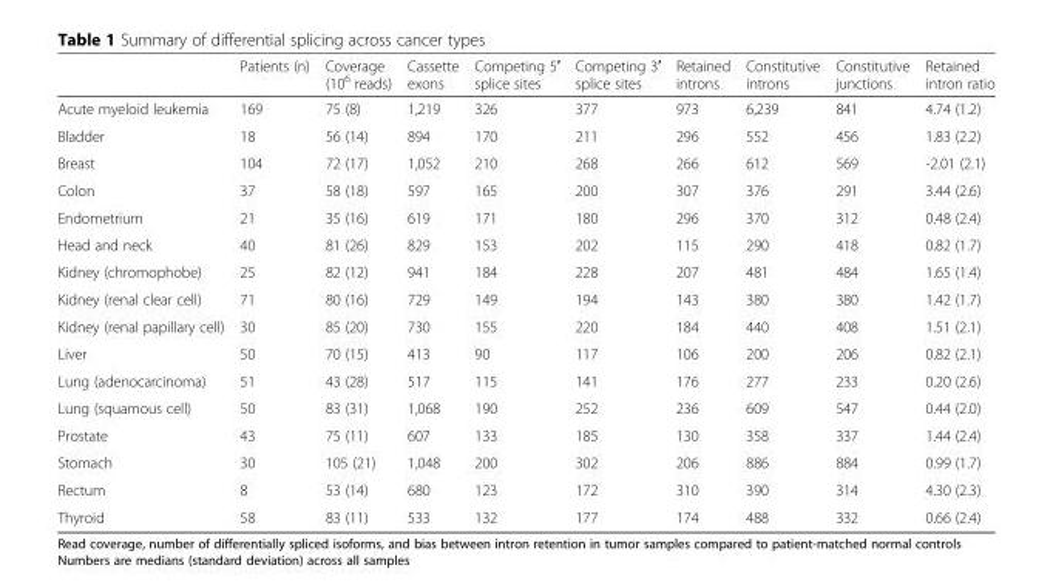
<table><thead><tr><td></td><td>Patients (n)</td><td>Coverage (10<sup>6</sup> reads)</td><td>Cassette exons</td><td>Competing 5′ splice sites</td><td>Competing 3′ splice sites</td><td>Retained introns</td><td>Constitutive introns</td><td>Constitutive junctions</td><td>Retained intron ratio</td></tr></thead><tbody><tr><td>Acute myeloid leukemia</td><td>169</td><td>75 (8)</td><td>1,219</td><td>326</td><td>377</td><td>973</td><td>6,239</td><td>841</td><td>4.74 (1.2)</td></tr><tr><td>Bladder</td><td>18</td><td>56 (14)</td><td>894</td><td>170</td><td>211</td><td>296</td><td>552</td><td>456</td><td>1.83 (2.2)</td></tr><tr><td>Breast</td><td>104</td><td>72 (17)</td><td>1,052</td><td>210</td><td>268</td><td>266</td><td>612</td><td>569</td><td>-2.01 (2.1)</td></tr><tr><td>Colon</td><td>37</td><td>58 (18)</td><td>597</td><td>165</td><td>200</td><td>307</td><td>376</td><td>291</td><td>3.44 (2.6)</td></tr><tr><td>Endometrium</td><td>21</td><td>35 (16)</td><td>619</td><td>171</td><td>180</td><td>296</td><td>370</td><td>312</td><td>0.48 (2.4)</td></tr><tr><td>Head and neck</td><td>40</td><td>81 (26)</td><td>829</td><td>153</td><td>202</td><td>115</td><td>290</td><td>418</td><td>0.82 (1.7)</td></tr><tr><td>Kidney (chromophobe)</td><td>25</td><td>82 (12)</td><td>941</td><td>184</td><td>228</td><td>207</td><td>481</td><td>484</td><td>1.65 (1.4)</td></tr><tr><td>Kidney (renal clear cell)</td><td>71</td><td>80 (16)</td><td>729</td><td>149</td><td>194</td><td>143</td><td>380</td><td>380</td><td>1.42 (1.7)</td></tr><tr><td>Kidney (renal papillary cell)</td><td>30</td><td>85 (20)</td><td>730</td><td>155</td><td>220</td><td>184</td><td>440</td><td>408</td><td>1.51 (2.1)</td></tr><tr><td>Liver</td><td>50</td><td>70 (15)</td><td>413</td><td>90</td><td>117</td><td>106</td><td>200</td><td>206</td><td>0.82 (2.1)</td></tr><tr><td>Lung (adenocarcinoma)</td><td>51</td><td>43 (28)</td><td>517</td><td>115</td><td>141</td><td>176</td><td>277</td><td>233</td><td>0.20 (2.6)</td></tr><tr><td>Lung (squamous cell)</td><td>50</td><td>83 (31)</td><td>1,068</td><td>190</td><td>252</td><td>236</td><td>609</td><td>547</td><td>0.44 (2.0)</td></tr><tr><td>Prostate</td><td>43</td><td>75 (11)</td><td>607</td><td>133</td><td>185</td><td>130</td><td>358</td><td>337</td><td>1.44 (2.4)</td></tr><tr><td>Stomach</td><td>30</td><td>105 (21)</td><td>1,048</td><td>200</td><td>302</td><td>206</td><td>886</td><td>884</td><td>0.99 (1.7)</td></tr><tr><td>Rectum</td><td>8</td><td>53 (14)</td><td>680</td><td>123</td><td>172</td><td>310</td><td>390</td><td>314</td><td>4.30 (2.3)</td></tr><tr><td>Thyroid</td><td>58</td><td>83 (11)</td><td>533</td><td>132</td><td>177</td><td>174</td><td>488</td><td>332</td><td>0.66 (2.4)</td></tr></tbody></table>